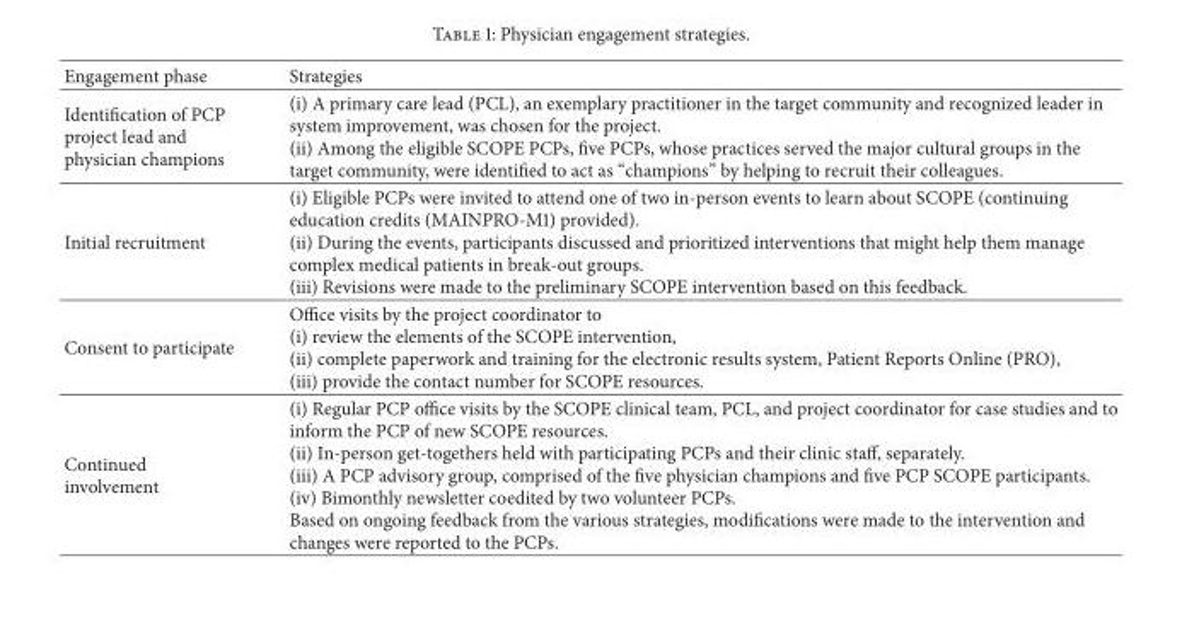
<table><thead><tr><td>Engagement phase</td><td>Strategies</td></tr></thead><tbody><tr><td>Identification of PCP project lead and physician champions</td><td>(i) A primary care lead (PCL), an exemplary practitioner in the target community and recognized leader in system improvement, was chosen for the project. (ii) Among the eligible SCOPE PCPs, five PCPs, whose practices served the major cultural groups in the target community, were identified to act as “champions” by helping to recruit their colleagues.</td></tr><tr><td>Initial recruitment</td><td>(i) Eligible PCPs were invited to attend one of two in-person events to learn about SCOPE (continuing education credits (MAINPRO-M1) provided). (ii) During the events, participants discussed and prioritized interventions that might help them manage complex medical patients in break-out groups. (iii) Revisions were made to the preliminary SCOPE intervention based on this feedback.</td></tr><tr><td>Consent to participate</td><td>Office visits by the project coordinator to (i) review the elements of the SCOPE intervention, (ii) complete paperwork and training for the electronic results system, Patient Reports Online (PRO), (iii) provide the contact number for SCOPE resources.</td></tr><tr><td>Continued involvement</td><td>(i) Regular PCP office visits by the SCOPE clinical team, PCL, and project coordinator for case studies and to inform the PCP of new SCOPE resources. (ii) In-person get-togethers held with participating PCPs and their clinic staff, separately. (iii) A PCP advisory group, comprised of the five physician champions and five PCP SCOPE participants. (iv) Bimonthly newsletter coedited by two volunteer PCPs. Based on ongoing feedback from the various strategies, modifications were made to the intervention and changes were reported to the PCPs.</td></tr></tbody></table>